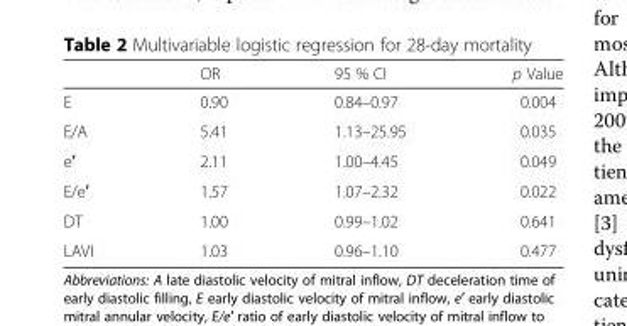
<table><thead><tr><td></td><td>OR</td><td>95 % CI</td><td>p Value</td></tr></thead><tbody><tr><td>E</td><td>0.90</td><td>0.84–0.97</td><td>0.004</td></tr><tr><td>E/A</td><td>5.41</td><td>1.13–25.95</td><td>0.035</td></tr><tr><td>e′</td><td>2.11</td><td>1.00–4.45</td><td>0.049</td></tr><tr><td>E/e′</td><td>1.57</td><td>1.07–2.32</td><td>0.022</td></tr><tr><td>DT</td><td>1.00</td><td>0.99–1.02</td><td>0.641</td></tr><tr><td>LAVI</td><td>1.03</td><td>0.96–1.10</td><td>0.477</td></tr></tbody></table>